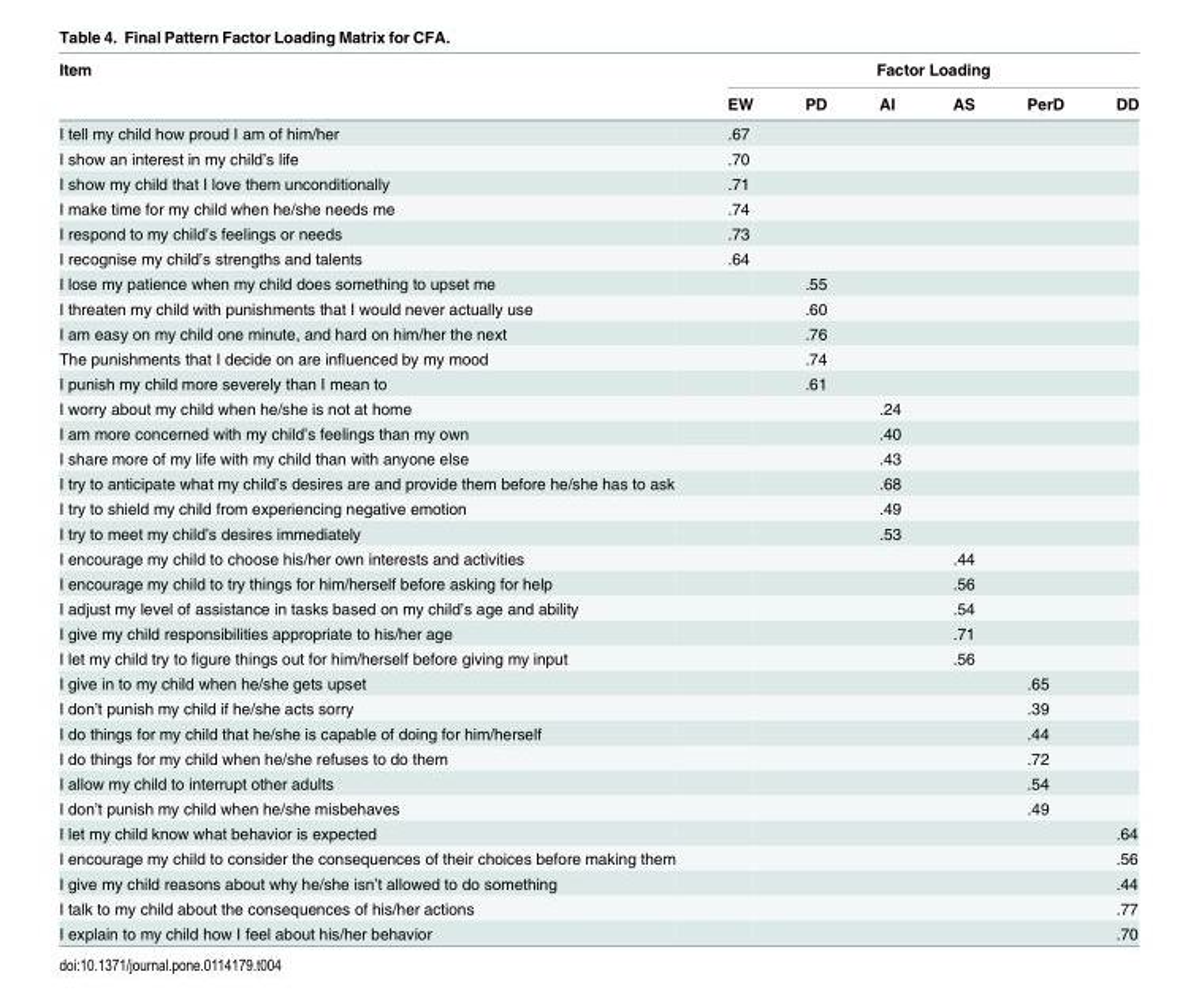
<table><thead><tr><td rowspan="2">Item</td><td colspan="6">Factor Loading</td></tr><tr><td>EW</td><td>PD</td><td>AI</td><td>AS</td><td>PerD</td><td>DD</td></tr></thead><tbody><tr><td>I tell my child how proud I am of him/her</td><td>.67</td><td></td><td></td><td></td><td></td><td></td></tr><tr><td>I show an interest in my child’s life</td><td>.70</td><td></td><td></td><td></td><td></td><td></td></tr><tr><td>I show my child that I love them unconditionally</td><td>.71</td><td></td><td></td><td></td><td></td><td></td></tr><tr><td>I make time for my child when he/she needs me</td><td>.74</td><td></td><td></td><td></td><td></td><td></td></tr><tr><td>I respond to my child’s feelings or needs</td><td>.73</td><td></td><td></td><td></td><td></td><td></td></tr><tr><td>I recognise my child’s strengths and talents</td><td>.64</td><td></td><td></td><td></td><td></td><td></td></tr><tr><td>I lose my patience when my child does something to upset me</td><td></td><td>.55</td><td></td><td></td><td></td><td></td></tr><tr><td>I threaten my child with punishments that I would never actually use</td><td></td><td>.60</td><td></td><td></td><td></td><td></td></tr><tr><td>I am easy on my child one minute, and hard on him/her the next</td><td></td><td>.76</td><td></td><td></td><td></td><td></td></tr><tr><td>The punishments that I decide on are influenced by my mood</td><td></td><td>.74</td><td></td><td></td><td></td><td></td></tr><tr><td>I punish my child more severely than I mean to</td><td></td><td>.61</td><td></td><td></td><td></td><td></td></tr><tr><td>I worry about my child when he/she is not at home</td><td></td><td></td><td>.24</td><td></td><td></td><td></td></tr><tr><td>I am more concerned with my child’s feelings than my own</td><td></td><td></td><td>.40</td><td></td><td></td><td></td></tr><tr><td>I share more of my life with my child than with anyone else</td><td></td><td></td><td>.43</td><td></td><td></td><td></td></tr><tr><td>I try to anticipate what my child’s desires are and provide them before he/she has to ask</td><td></td><td></td><td>.68</td><td></td><td></td><td></td></tr><tr><td>I try to shield my child from experiencing negative emotion</td><td></td><td></td><td>.49</td><td></td><td></td><td></td></tr><tr><td>I try to meet my child’s desires immediately</td><td></td><td></td><td>.53</td><td></td><td></td><td></td></tr><tr><td>I encourage my child to choose his/her own interests and activities</td><td></td><td></td><td></td><td>.44</td><td></td><td></td></tr><tr><td>I encourage my child to try things for him/herself before asking for help</td><td></td><td></td><td></td><td>.56</td><td></td><td></td></tr><tr><td>I adjust my level of assistance in tasks based on my child’s age and ability</td><td></td><td></td><td></td><td>.54</td><td></td><td></td></tr><tr><td>I give my child responsibilities appropriate to his/her age</td><td></td><td></td><td></td><td>.71</td><td></td><td></td></tr><tr><td>I let my child try to figure things out for him/herself before giving my input</td><td></td><td></td><td></td><td>.56</td><td></td><td></td></tr><tr><td>I give in to my child when he/she gets upset</td><td></td><td></td><td></td><td></td><td>.65</td><td></td></tr><tr><td>I don’t punish my child if he/she acts sorry</td><td></td><td></td><td></td><td></td><td>.39</td><td></td></tr><tr><td>I do things for my child that he/she is capable of doing for him/herself</td><td></td><td></td><td></td><td></td><td>.44</td><td></td></tr><tr><td>I do things for my child when he/she refuses to do them</td><td></td><td></td><td></td><td></td><td>.72</td><td></td></tr><tr><td>I allow my child to interrupt other adults</td><td></td><td></td><td></td><td></td><td>.54</td><td></td></tr><tr><td>I don’t punish my child when he/she misbehaves</td><td></td><td></td><td></td><td></td><td>.49</td><td></td></tr><tr><td>I let my child know what behavior is expected</td><td></td><td></td><td></td><td></td><td></td><td>.64</td></tr><tr><td>I encourage my child to consider the consequences of their choices before making them</td><td></td><td></td><td></td><td></td><td></td><td>.56</td></tr><tr><td>I give my child reasons about why he/she isn’t allowed to do something</td><td></td><td></td><td></td><td></td><td></td><td>.44</td></tr><tr><td>I talk to my child about the consequences of his/her actions</td><td></td><td></td><td></td><td></td><td></td><td>.77</td></tr><tr><td>I explain to my child how I feel about his/her behavior</td><td></td><td></td><td></td><td></td><td></td><td>.70</td></tr></tbody></table>